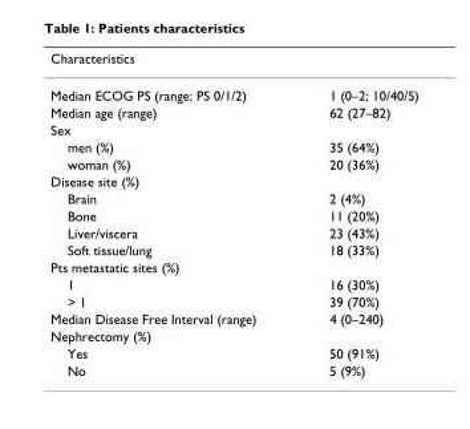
<table><thead><tr><td>Characteristics</td><td></td></tr></thead><tbody><tr><td>Median ECOG PS (range; PS 0/1/2)</td><td>1 (0–2; 10/40/5)</td></tr><tr><td>Median age (range)</td><td>62 (27–82)</td></tr><tr><td colspan="2">Sex</td></tr><tr><td>men (%)</td><td>35 (64%)</td></tr><tr><td>woman (%)</td><td>20 (36%)</td></tr><tr><td colspan="2">Disease site (%)</td></tr><tr><td>Brain</td><td>2 (4%)</td></tr><tr><td>Bone</td><td>11 (20%)</td></tr><tr><td>Liver/viscera</td><td>23 (43%)</td></tr><tr><td>Soft tissue/lung</td><td>18 (33%)</td></tr><tr><td colspan="2">Pts metastatic sites (%)</td></tr><tr><td>1</td><td>16 (30%)</td></tr><tr><td>&gt; 1</td><td>39 (70%)</td></tr><tr><td>Median Disease Free Interval (range)</td><td>4 (0–240)</td></tr><tr><td colspan="2">Nephrectomy (%)</td></tr><tr><td>Yes</td><td>50 (91%)</td></tr><tr><td>No</td><td>5 (9%)</td></tr></tbody></table>